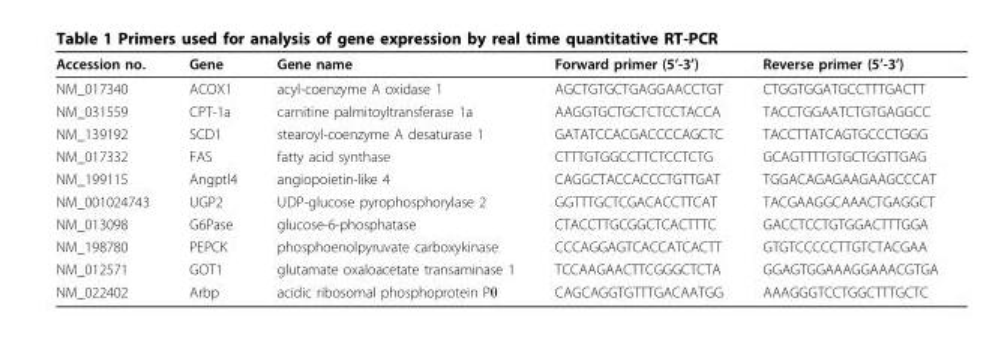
<table><thead><tr><td>Accession no.</td><td>Gene</td><td>Gene name</td><td>Forward primer (5’-3’)</td><td>Reverse primer (5’-3’)</td></tr></thead><tbody><tr><td>NM_017340</td><td>ACOX1</td><td>acyl-coenzyme A oxidase 1</td><td>AGCTGTGCTGAGGAACCTGT</td><td>CTGGTGGATGCCTTTGACTT</td></tr><tr><td>NM_031559</td><td>CPT-1a</td><td>carnitine palmitoyltransferase 1a</td><td>AAGGTGCTGCTCTCCTACCA</td><td>TACCTGGAATCTGTGAGGCC</td></tr><tr><td>NM_139192</td><td>SCD1</td><td>stearoyl-coenzyme A desaturase 1</td><td>GATATCCACGACCCCAGCTC</td><td>TACCTTATCAGTGCCCTGGG</td></tr><tr><td>NM_017332</td><td>FAS</td><td>fatty acid synthase</td><td>CTTTGTGGCCTTCTCCTCTG</td><td>GCAGTTTTGTGCTGGTTGAG</td></tr><tr><td>NM_199115</td><td>Angptl4</td><td>angiopoietin-like 4</td><td>CAGGCTACCACCCTGTTGAT</td><td>TGGACAGAGAAGAAGCCCAT</td></tr><tr><td>NM_001024743</td><td>UGP2</td><td>UDP-glucose pyrophosphorylase 2</td><td>GGTTTGCTCGACACCTTCAT</td><td>TACGAAGGCAAACTGAGGCT</td></tr><tr><td>NM_013098</td><td>G6Pase</td><td>glucose-6-phosphatase</td><td>CTACCTTGCGGCTCACTTTC</td><td>GACCTCCTGTGGACTTTGGA</td></tr><tr><td>NM_198780</td><td>PEPCK</td><td>phosphoenolpyruvate carboxykinase</td><td>CCCAGGAGTCACCATCACTT</td><td>GTGTCCCCCTTGTCTACGAA</td></tr><tr><td>NM_012571</td><td>GOT1</td><td>glutamate oxaloacetate transaminase 1</td><td>TCCAAGAACTTCGGGCTCTA</td><td>GGAGTGGAAAGGAAACGTGA</td></tr><tr><td>NM_022402</td><td>Arbp</td><td>acidic ribosomal phosphoprotein Pθ</td><td>CAGCAGGTGTTTGACAATGG</td><td>AAAGGGTCCTGGCTTTGCTC</td></tr></tbody></table>